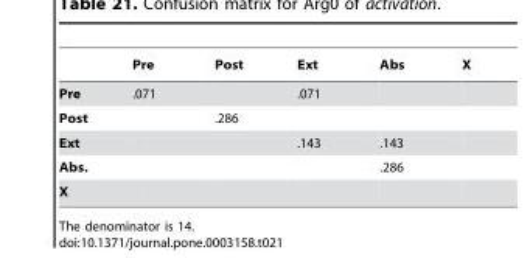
<table><thead><tr><td></td><td>Pre</td><td>Post</td><td>Ext</td><td>Abs</td><td>X</td></tr></thead><tbody><tr><td>Pre</td><td>.071</td><td></td><td>.071</td><td></td><td></td></tr><tr><td>Post</td><td></td><td>.286</td><td></td><td></td><td></td></tr><tr><td>Ext</td><td></td><td></td><td>.143</td><td>.143</td><td></td></tr><tr><td>Abs.</td><td></td><td></td><td></td><td>.286</td><td></td></tr><tr><td>X</td><td></td><td></td><td></td><td></td><td></td></tr></tbody></table>